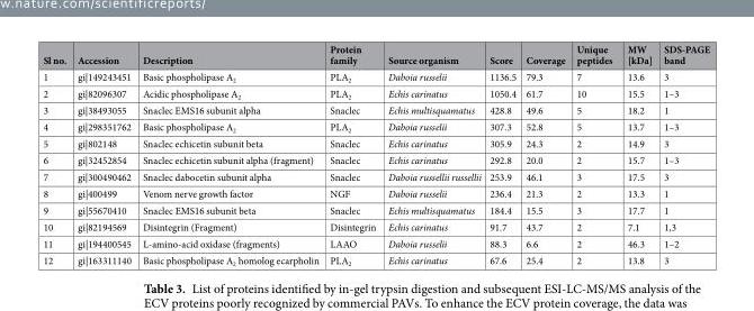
<table><thead><tr><td>Sl no.</td><td>Accession</td><td>Description</td><td>Protein family</td><td>Source organism</td><td>Score</td><td>Coverage</td><td>Unique peptides</td><td>MW [kDa]</td><td>SDS-PAGE band</td></tr></thead><tbody><tr><td>1</td><td>gi|149243451</td><td>Basic phospholipase A<sub>2</sub></td><td>PLA<sub>2</sub></td><td>Daboia russelii</td><td>1136.5</td><td>79.3</td><td>7</td><td>13.6</td><td>3</td></tr><tr><td>2</td><td>gi|82096307</td><td>Acidic phospholipase A<sub>2</sub></td><td>PLA<sub>2</sub></td><td>Echis carinatus</td><td>1050.4</td><td>61.7</td><td>10</td><td>15.5</td><td>1–3</td></tr><tr><td>3</td><td>gi|38493055</td><td>Snaclec EMS16 subunit alpha</td><td>Snaclec</td><td>Echis multisquamatus</td><td>428.8</td><td>49.6</td><td>5</td><td>18.2</td><td>1</td></tr><tr><td>4</td><td>gi|298351762</td><td>Basic phospholipase A<sub>2</sub></td><td>PLA<sub>2</sub></td><td>Daboia russelii</td><td>307.3</td><td>52.8</td><td>5</td><td>13.7</td><td>1–3</td></tr><tr><td>5</td><td>gi|802148</td><td>Snaclec echicetin subunit beta</td><td>Snaclec</td><td>Echis carinatus</td><td>305.9</td><td>24.3</td><td>2</td><td>14.9</td><td>3</td></tr><tr><td>6</td><td>gi|32452854</td><td>Snaclec echicetin subunit alpha (fragment)</td><td>Snaclec</td><td>Echis carinatus</td><td>292.8</td><td>20.0</td><td>2</td><td>15.7</td><td>1–3</td></tr><tr><td>7</td><td>gi|300490462</td><td>Snaclec dabocetin subunit alpha</td><td>Snaclec</td><td>Daboia russellii russellii</td><td>253.9</td><td>46.1</td><td>3</td><td>17.5</td><td>3</td></tr><tr><td>8</td><td>gi|400499</td><td>Venom nerve growth factor</td><td>NGF</td><td>Daboia russelii</td><td>236.4</td><td>21.3</td><td>2</td><td>13.3</td><td>1</td></tr><tr><td>9</td><td>gi|55670410</td><td>Snaclec EMS16 subunit beta</td><td>Snaclec</td><td>Echis multisquamatus</td><td>184.4</td><td>15.5</td><td>3</td><td>17.7</td><td>1</td></tr><tr><td>10</td><td>gi|82194569</td><td>Disintegrin (Fragment)</td><td>Disintegrin</td><td>Echis carinatus</td><td>91.7</td><td>43.7</td><td>2</td><td>7.1</td><td>1,3</td></tr><tr><td>11</td><td>gi|194400545</td><td>L-amino-acid oxidase (fragments)</td><td>LAAO</td><td>Daboia russelii</td><td>88.3</td><td>6.6</td><td>2</td><td>46.3</td><td>1–2</td></tr><tr><td>12</td><td>gi|163311140</td><td>Basic phospholipase A<sub>2</sub> homolog ecarpholin</td><td>PLA<sub>2</sub></td><td>Echis carinatus</td><td>67.6</td><td>25.4</td><td>2</td><td>13.8</td><td>3</td></tr></tbody></table>